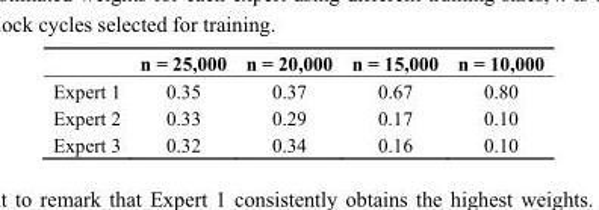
<table><thead><tr><td></td><td>n = 25,000</td><td>n = 20,000</td><td>n = 15,000</td><td>n = 10,000</td></tr></thead><tbody><tr><td>Expert 1</td><td>0.35</td><td>0.37</td><td>0.67</td><td>0.80</td></tr><tr><td>Expert 2</td><td>0.33</td><td>0.29</td><td>0.17</td><td>0.10</td></tr><tr><td>Expert 3</td><td>0.32</td><td>0.34</td><td>0.16</td><td>0.10</td></tr></tbody></table>